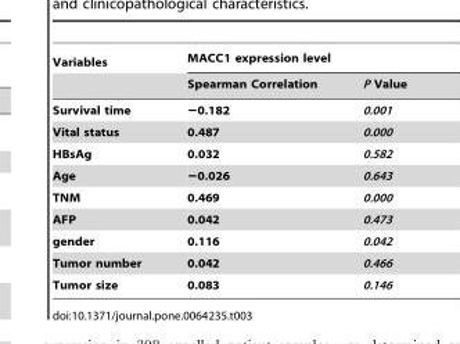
<table><thead><tr><td rowspan="2">Variables</td><td colspan="2">MACC1 expression level</td></tr><tr><td>Spearman Correlation</td><td>P Value</td></tr></thead><tbody><tr><td>Survival time</td><td>−0.182</td><td>0.001</td></tr><tr><td>Vital status</td><td>0.487</td><td>0.000</td></tr><tr><td>HBsAg</td><td>0.032</td><td>0.582</td></tr><tr><td>Age</td><td>−0.026</td><td>0.643</td></tr><tr><td>TNM</td><td>0.469</td><td>0.000</td></tr><tr><td>AFP</td><td>0.042</td><td>0.473</td></tr><tr><td>gender</td><td>0.116</td><td>0.042</td></tr><tr><td>Tumor number</td><td>0.042</td><td>0.466</td></tr><tr><td>Tumor size</td><td>0.083</td><td>0.146</td></tr></tbody></table>